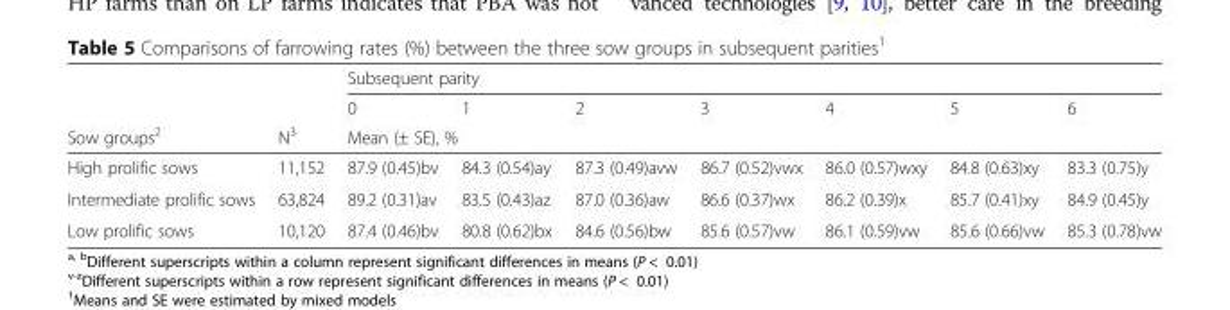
<table><thead><tr><td rowspan="3">Sow groups<sup>2</sup></td><td rowspan="3">N<sup>3</sup></td><td colspan="7">Subsequent parity</td></tr><tr><td>0</td><td>1</td><td>2</td><td>3</td><td>4</td><td>5</td><td>6</td></tr><tr><td colspan="7">Mean (± SE), %</td></tr></thead><tbody><tr><td>High prolific sows</td><td>11,152</td><td>87.9 (0.45)bv</td><td>84.3 (0.54)ay</td><td>87.3 (0.49)avw</td><td>86.7 (0.52)vwx</td><td>86.0 (0.57)wxy</td><td>84.8 (0.63)xy</td><td>83.3 (0.75)y</td></tr><tr><td>Intermediate prolific sows</td><td>63,824</td><td>89.2 (0.31)av</td><td>83.5 (0.43)az</td><td>87.0 (0.36)aw</td><td>86.6 (0.37)wx</td><td>86.2 (0.39)x</td><td>85.7 (0.41)xy</td><td>84.9 (0.45)y</td></tr><tr><td>Low prolific sows</td><td>10,120</td><td>87.4 (0.46)bv</td><td>80.8 (0.62)bx</td><td>84.6 (0.56)bw</td><td>85.6 (0.57)vw</td><td>86.1 (0.59)vw</td><td>85.6 (0.66)vw</td><td>85.3 (0.78)vw</td></tr></tbody></table>